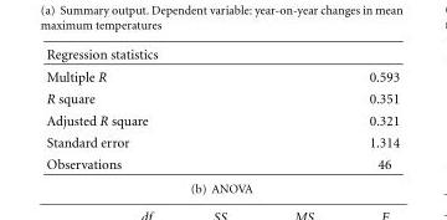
<table><thead><tr><td>Regression statistics</td><td></td></tr></thead><tbody><tr><td>Multiple R</td><td>0.593</td></tr><tr><td>R square</td><td>0.351</td></tr><tr><td>Adjusted R square</td><td>0.321</td></tr><tr><td>Standard error</td><td>1.314</td></tr><tr><td>Observations</td><td>46</td></tr></tbody></table>